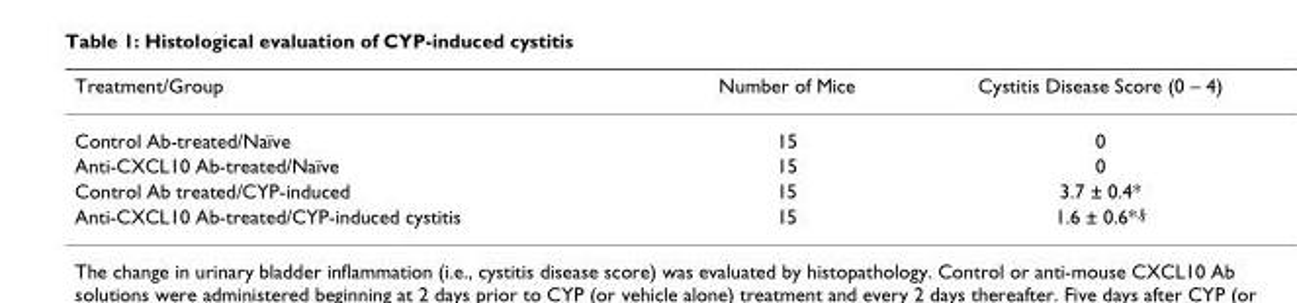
<table><thead><tr><td>Treatment/Group</td><td>Number of Mice</td><td>Cystitis Disease Score (0 – 4)</td></tr></thead><tbody><tr><td>Control Ab-treated/Naïve</td><td>15</td><td>0</td></tr><tr><td>Anti-CXCL10 Ab-treated/Naïve</td><td>15</td><td>0</td></tr><tr><td>Control Ab treated/CYP-induced</td><td>15</td><td>3.7 ± 0.4*</td></tr><tr><td>Anti-CXCL10 Ab-treated/CYP-induced cystitis</td><td>15</td><td>1.6 ± 0.6*<sup>,§</sup></td></tr></tbody></table>